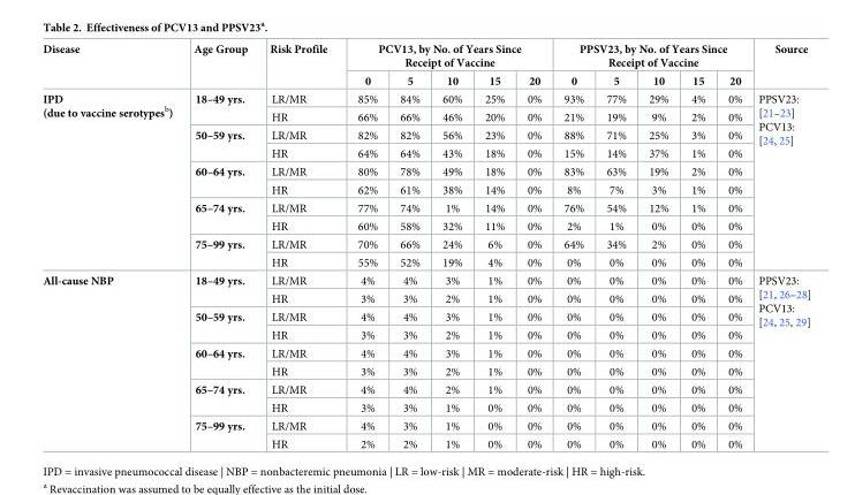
<table><thead><tr><td rowspan="2">Disease</td><td rowspan="2">Age Group</td><td rowspan="2">Risk Profile</td><td colspan="5">PCV13, by No. of Years Since Receipt of Vaccine</td><td colspan="5">PPSV23, by No. of Years Since Receipt of Vaccine</td><td rowspan="2">Source</td></tr><tr><td>0</td><td>5</td><td>10</td><td>15</td><td>20</td><td>0</td><td>5</td><td>10</td><td>15</td><td>20</td></tr></thead><tbody><tr><td rowspan="10">IPD (due to vaccine serotypes<sup>b</sup>)</td><td rowspan="2">18–49 yrs.</td><td>LR/MR</td><td>85%</td><td>84%</td><td>60%</td><td>25%</td><td>0%</td><td>93%</td><td>77%</td><td>29%</td><td>4%</td><td>0%</td><td rowspan="10">PPSV23: [21–23] PCV13: [24, 25]</td></tr><tr><td>HR</td><td>66%</td><td>66%</td><td>46%</td><td>20%</td><td>0%</td><td>21%</td><td>19%</td><td>9%</td><td>2%</td><td>0%</td></tr><tr><td rowspan="2">50–59 yrs.</td><td>LR/MR</td><td>82%</td><td>82%</td><td>56%</td><td>23%</td><td>0%</td><td>88%</td><td>71%</td><td>25%</td><td>3%</td><td>0%</td></tr><tr><td>HR</td><td>64%</td><td>64%</td><td>43%</td><td>18%</td><td>0%</td><td>15%</td><td>14%</td><td>37%</td><td>1%</td><td>0%</td></tr><tr><td rowspan="2">60–64 yrs.</td><td>LR/MR</td><td>80%</td><td>78%</td><td>49%</td><td>18%</td><td>0%</td><td>83%</td><td>63%</td><td>19%</td><td>2%</td><td>0%</td></tr><tr><td>HR</td><td>62%</td><td>61%</td><td>38%</td><td>14%</td><td>0%</td><td>8%</td><td>7%</td><td>3%</td><td>1%</td><td>0%</td></tr><tr><td rowspan="2">65–74 yrs.</td><td>LR/MR</td><td>77%</td><td>74%</td><td>1%</td><td>14%</td><td>0%</td><td>76%</td><td>54%</td><td>12%</td><td>1%</td><td>0%</td></tr><tr><td>HR</td><td>60%</td><td>58%</td><td>32%</td><td>11%</td><td>0%</td><td>2%</td><td>1%</td><td>0%</td><td>0%</td><td>0%</td></tr><tr><td rowspan="2">75–99 yrs.</td><td>LR/MR</td><td>70%</td><td>66%</td><td>24%</td><td>6%</td><td>0%</td><td>64%</td><td>34%</td><td>2%</td><td>0%</td><td>0%</td></tr><tr><td>HR</td><td>55%</td><td>52%</td><td>19%</td><td>4%</td><td>0%</td><td>0%</td><td>0%</td><td>0%</td><td>0%</td><td>0%</td></tr><tr><td rowspan="10">All-cause NBP</td><td rowspan="2">18–49 yrs.</td><td>LR/MR</td><td>4%</td><td>4%</td><td>3%</td><td>1%</td><td>0%</td><td>0%</td><td>0%</td><td>0%</td><td>0%</td><td>0%</td><td rowspan="10">PPSV23: [21, 26–28] PCV13: [24, 25, 29]</td></tr><tr><td>HR</td><td>3%</td><td>3%</td><td>2%</td><td>1%</td><td>0%</td><td>0%</td><td>0%</td><td>0%</td><td>0%</td><td>0%</td></tr><tr><td rowspan="2">50–59 yrs.</td><td>LR/MR</td><td>4%</td><td>4%</td><td>3%</td><td>1%</td><td>0%</td><td>0%</td><td>0%</td><td>0%</td><td>0%</td><td>0%</td></tr><tr><td>HR</td><td>3%</td><td>3%</td><td>2%</td><td>1%</td><td>0%</td><td>0%</td><td>0%</td><td>0%</td><td>0%</td><td>0%</td></tr><tr><td rowspan="2">60–64 yrs.</td><td>LR/MR</td><td>4%</td><td>4%</td><td>3%</td><td>1%</td><td>0%</td><td>0%</td><td>0%</td><td>0%</td><td>0%</td><td>0%</td></tr><tr><td>HR</td><td>3%</td><td>3%</td><td>2%</td><td>1%</td><td>0%</td><td>0%</td><td>0%</td><td>0%</td><td>0%</td><td>0%</td></tr><tr><td rowspan="2">65–74 yrs.</td><td>LR/MR</td><td>4%</td><td>4%</td><td>2%</td><td>1%</td><td>0%</td><td>0%</td><td>0%</td><td>0%</td><td>0%</td><td>0%</td></tr><tr><td>HR</td><td>3%</td><td>3%</td><td>1%</td><td>0%</td><td>0%</td><td>0%</td><td>0%</td><td>0%</td><td>0%</td><td>0%</td></tr><tr><td rowspan="2">75–99 yrs.</td><td>LR/MR</td><td>4%</td><td>3%</td><td>1%</td><td>0%</td><td>0%</td><td>0%</td><td>0%</td><td>0%</td><td>0%</td><td>0%</td></tr><tr><td>HR</td><td>2%</td><td>2%</td><td>1%</td><td>0%</td><td>0%</td><td>0%</td><td>0%</td><td>0%</td><td>0%</td><td>0%</td></tr></tbody></table>